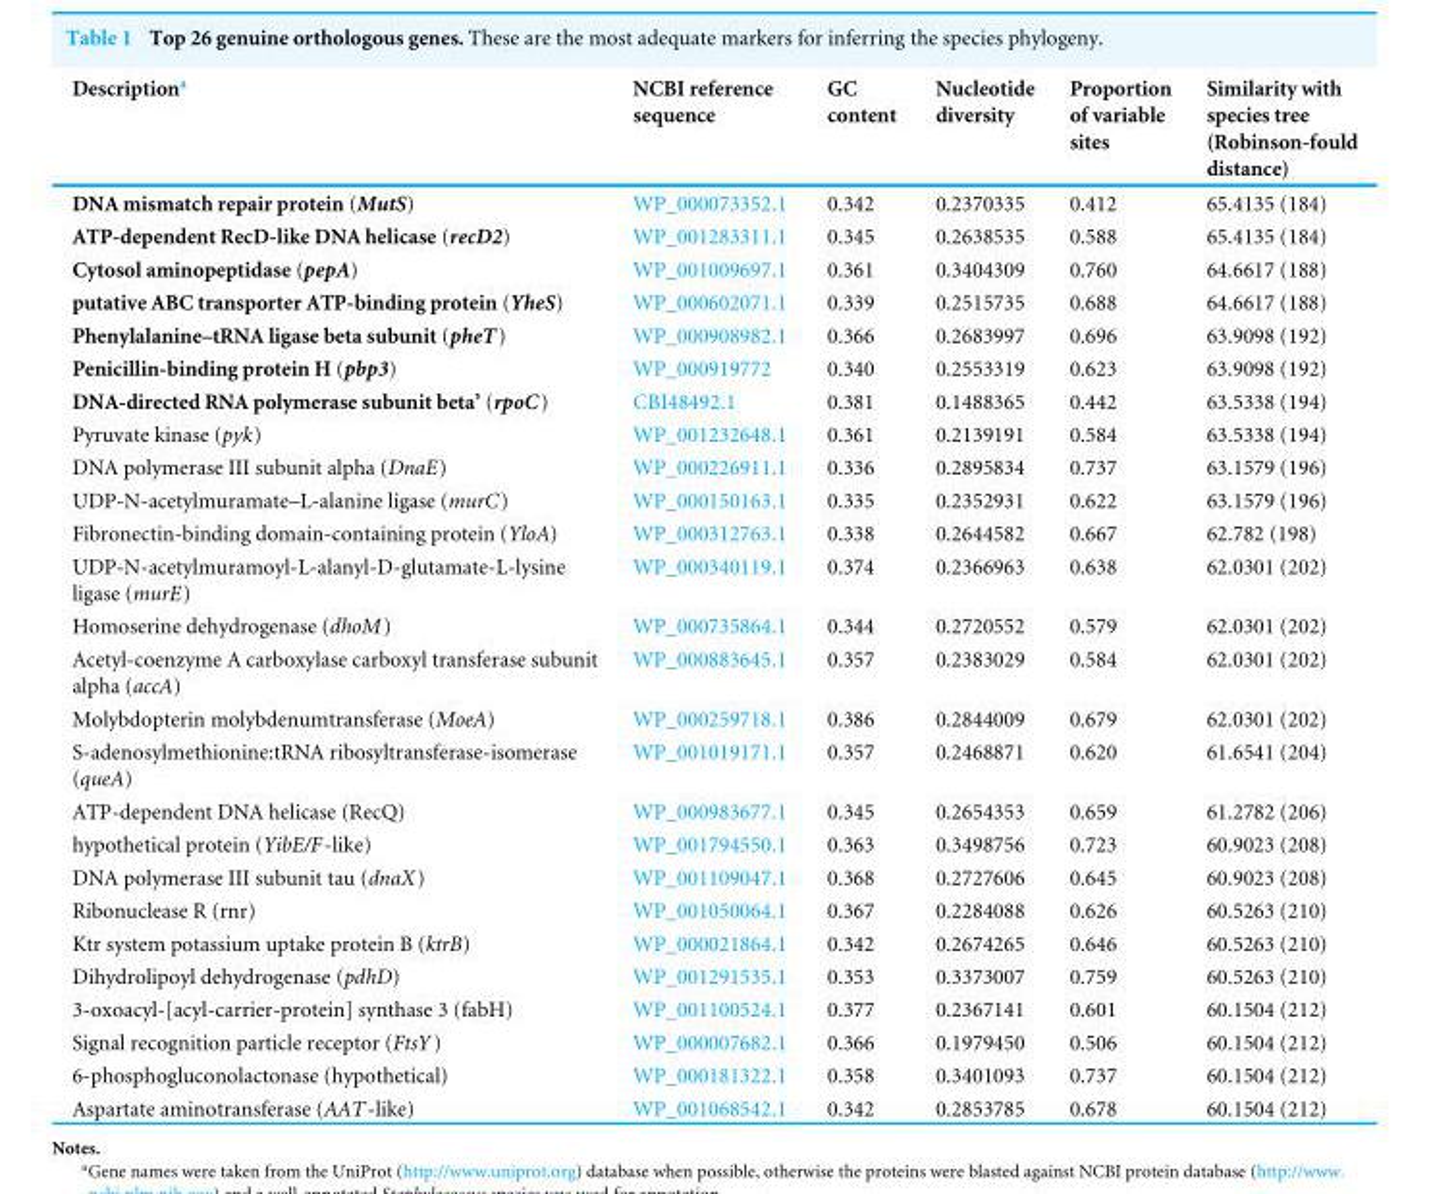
<table><thead><tr><td>Description<sup>a</sup></td><td>NCBI reference sequence</td><td>GC content</td><td>Nucleotide diversity</td><td>Proportion of variable sites</td><td>Similarity with species tree (Robinson-fould distance)</td></tr></thead><tbody><tr><td>DNA mismatch repair protein (MutS)</td><td>WP_000073352.1</td><td>0.342</td><td>0.2370335</td><td>0.412</td><td>65.4135 (184)</td></tr><tr><td>ATP-dependent RecD-like DNA helicase (recD2)</td><td>WP_001283311.1</td><td>0.345</td><td>0.2638535</td><td>0.588</td><td>65.4135 (184)</td></tr><tr><td>Cytosol aminopeptidase (pepA)</td><td>WP_001009697.1</td><td>0.361</td><td>0.3404309</td><td>0.760</td><td>64.6617 (188)</td></tr><tr><td>putative ABC transporter ATP-binding protein (YheS)</td><td>WP_000602071.1</td><td>0.339</td><td>0.2515735</td><td>0.688</td><td>64.6617 (188)</td></tr><tr><td>Phenylalanine–tRNA ligase beta subunit (pheT)</td><td>WP_000908982.1</td><td>0.366</td><td>0.2683997</td><td>0.696</td><td>63.9098 (192)</td></tr><tr><td>Penicillin-binding protein H (pbp3)</td><td>WP_000919772</td><td>0.340</td><td>0.2553319</td><td>0.623</td><td>63.9098 (192)</td></tr><tr><td>DNA-directed RNA polymerase subunit beta’ (rpoC)</td><td>CBI48492.1</td><td>0.381</td><td>0.1488365</td><td>0.442</td><td>63.5338 (194)</td></tr><tr><td>Pyruvate kinase (pyk)</td><td>WP_001232648.1</td><td>0.361</td><td>0.2139191</td><td>0.584</td><td>63.5338 (194)</td></tr><tr><td>DNA polymerase III subunit alpha (DnaE)</td><td>WP_000226911.1</td><td>0.336</td><td>0.2895834</td><td>0.737</td><td>63.1579 (196)</td></tr><tr><td>UDP-N-acetylmuramate–L-alanine ligase (murC)</td><td>WP_000150163.1</td><td>0.335</td><td>0.2352931</td><td>0.622</td><td>63.1579 (196)</td></tr><tr><td>Fibronectin-binding domain-containing protein (YloA)</td><td>WP_000312763.1</td><td>0.338</td><td>0.2644582</td><td>0.667</td><td>62.782 (198)</td></tr><tr><td>UDP-N-acetylmuramoyl-L-alanyl-D-glutamate-L-lysine ligase (murE)</td><td>WP_000340119.1</td><td>0.374</td><td>0.2366963</td><td>0.638</td><td>62.0301 (202)</td></tr><tr><td>Homoserine dehydrogenase (dhoM)</td><td>WP_000735864.1</td><td>0.344</td><td>0.2720552</td><td>0.579</td><td>62.0301 (202)</td></tr><tr><td>Acetyl-coenzyme A carboxylase carboxyl transferase subunit alpha (accA)</td><td>WP_000883645.1</td><td>0.357</td><td>0.2383029</td><td>0.584</td><td>62.0301 (202)</td></tr><tr><td>Molybdopterin molybdenumtransferase (MoeA)</td><td>WP_000259718.1</td><td>0.386</td><td>0.2844009</td><td>0.679</td><td>62.0301 (202)</td></tr><tr><td>S-adenosylmethionine:tRNA ribosyltransferase-isomerase (queA)</td><td>WP_001019171.1</td><td>0.357</td><td>0.2468871</td><td>0.620</td><td>61.6541 (204)</td></tr><tr><td>ATP-dependent DNA helicase (RecQ)</td><td>WP_000983677.1</td><td>0.345</td><td>0.2654353</td><td>0.659</td><td>61.2782 (206)</td></tr><tr><td>hypothetical protein (YibE/F-like)</td><td>WP_001794550.1</td><td>0.363</td><td>0.3498756</td><td>0.723</td><td>60.9023 (208)</td></tr><tr><td>DNA polymerase III subunit tau (dnaX)</td><td>WP_001109047.1</td><td>0.368</td><td>0.2727606</td><td>0.645</td><td>60.9023 (208)</td></tr><tr><td>Ribonuclease R (rnr)</td><td>WP_001050064.1</td><td>0.367</td><td>0.2284088</td><td>0.626</td><td>60.5263 (210)</td></tr><tr><td>Ktr system potassium uptake protein B (ktrB)</td><td>WP_000021864.1</td><td>0.342</td><td>0.2674265</td><td>0.646</td><td>60.5263 (210)</td></tr><tr><td>Dihydrolipoyl dehydrogenase (pdhD)</td><td>WP_001291535.1</td><td>0.353</td><td>0.3373007</td><td>0.759</td><td>60.5263 (210)</td></tr><tr><td>3-oxoacyl-[acyl-carrier-protein] synthase 3 (fabH)</td><td>WP_001100524.1</td><td>0.377</td><td>0.2367141</td><td>0.601</td><td>60.1504 (212)</td></tr><tr><td>Signal recognition particle receptor (FtsY )</td><td>WP_000007682.1</td><td>0.366</td><td>0.1979450</td><td>0.506</td><td>60.1504 (212)</td></tr><tr><td>6-phosphogluconolactonase (hypothetical)</td><td>WP_000181322.1</td><td>0.358</td><td>0.3401093</td><td>0.737</td><td>60.1504 (212)</td></tr><tr><td>Aspartate aminotransferase (AAT-like)</td><td>WP_001068542.1</td><td>0.342</td><td>0.2853785</td><td>0.678</td><td>60.1504 (212)</td></tr></tbody></table>